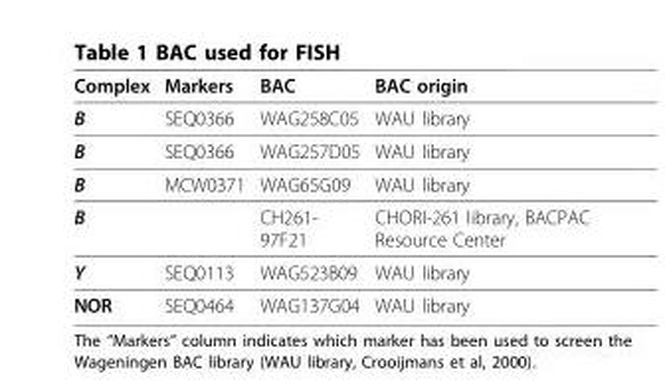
<table><thead><tr><td>Complex</td><td>Markers</td><td>BAC</td><td>BAC origin</td></tr></thead><tbody><tr><td>B</td><td>SEQ0366</td><td>WAG258C05</td><td>WAU library</td></tr><tr><td>B</td><td>SEQ0366</td><td>WAG257D05</td><td>WAU library</td></tr><tr><td>B</td><td>MCW0371</td><td>WAG65G09</td><td>WAU library</td></tr><tr><td>B</td><td></td><td>CH261- 97F21</td><td>CHORI-261 library, BACPAC Resource Center</td></tr><tr><td>Y</td><td>SEQ0113</td><td>WAG523B09</td><td>WAU library</td></tr><tr><td>NOR</td><td>SEQ0464</td><td>WAG137G04</td><td>WAU library</td></tr></tbody></table>